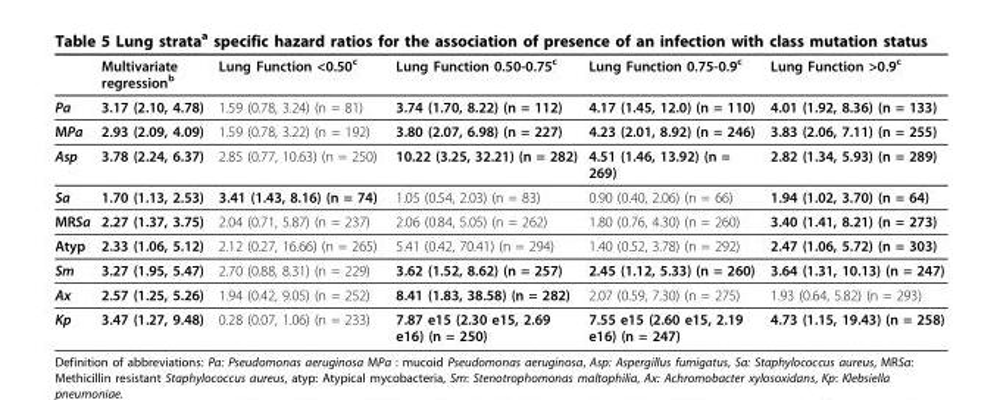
<table><thead><tr><td></td><td>Multivariate regression<sup>b</sup></td><td>Lung Function &lt;0.50<sup>c</sup></td><td>Lung Function 0.50-0.75<sup>c</sup></td><td>Lung Function 0.75-0.9<sup>c</sup></td><td>Lung Function &gt;0.9<sup>c</sup></td></tr></thead><tbody><tr><td>Pa</td><td>3.17 (2.10, 4.78)</td><td>1.59 (0.78, 3.24) (n = 81)</td><td>3.74 (1.70, 8.22) (n = 112)</td><td>4.17 (1.45, 12.0) (n = 110)</td><td>4.01 (1.92, 8.36) (n = 133)</td></tr><tr><td>MPa</td><td>2.93 (2.09, 4.09)</td><td>1.59 (0.78, 3.22) (n = 192)</td><td>3.80 (2.07, 6.98) (n = 227)</td><td>4.23 (2.01, 8.92) (n = 246)</td><td>3.83 (2.06, 7.11) (n = 255)</td></tr><tr><td>Asp</td><td>3.78 (2.24, 6.37)</td><td>2.85 (0.77, 10.63) (n = 250)</td><td>10.22 (3.25, 32.21) (n = 282)</td><td>4.51 (1.46, 13.92) (n = 269)</td><td>2.82 (1.34, 5.93) (n = 289)</td></tr><tr><td>Sa</td><td>1.70 (1.13, 2.53)</td><td>3.41 (1.43, 8.16) (n = 74)</td><td>1.05 (0.54, 2.03) (n = 83)</td><td>0.90 (0.40, 2.06) (n = 66)</td><td>1.94 (1.02, 3.70) (n = 64)</td></tr><tr><td>MRSa</td><td>2.27 (1.37, 3.75)</td><td>2.04 (0.71, 5.87) (n = 237)</td><td>2.06 (0.84, 5.05) (n = 262)</td><td>1.80 (0.76, 4.30) (n = 260)</td><td>3.40 (1.41, 8.21) (n = 273)</td></tr><tr><td>Atyp</td><td>2.33 (1.06, 5.12)</td><td>2.12 (0.27, 16.66) (n = 265)</td><td>5.41 (0.42, 70.41) (n = 294)</td><td>1.40 (0.52, 3.78) (n = 292)</td><td>2.47 (1.06, 5.72) (n = 303)</td></tr><tr><td>Sm</td><td>3.27 (1.95, 5.47)</td><td>2.70 (0.88, 8.31) (n = 229)</td><td>3.62 (1.52, 8.62) (n = 257)</td><td>2.45 (1.12, 5.33) (n = 260)</td><td>3.64 (1.31, 10.13) (n = 247)</td></tr><tr><td>Ax</td><td>2.57 (1.25, 5.26)</td><td>1.94 (0.42, 9.05) (n = 252)</td><td>8.41 (1.83, 38.58) (n = 282)</td><td>2.07 (0.59, 7.30) (n = 275)</td><td>1.93 (0.64, 5.82) (n = 293)</td></tr><tr><td>Kp</td><td>3.47 (1.27, 9.48)</td><td>0.28 (0.07, 1.06) (n = 233)</td><td>7.87 e15 (2.30 e15, 2.69 e16) (n = 250)</td><td>7.55 e15 (2.60 e15, 2.19 e16) (n = 247)</td><td>4.73 (1.15, 19.43) (n = 258)</td></tr></tbody></table>